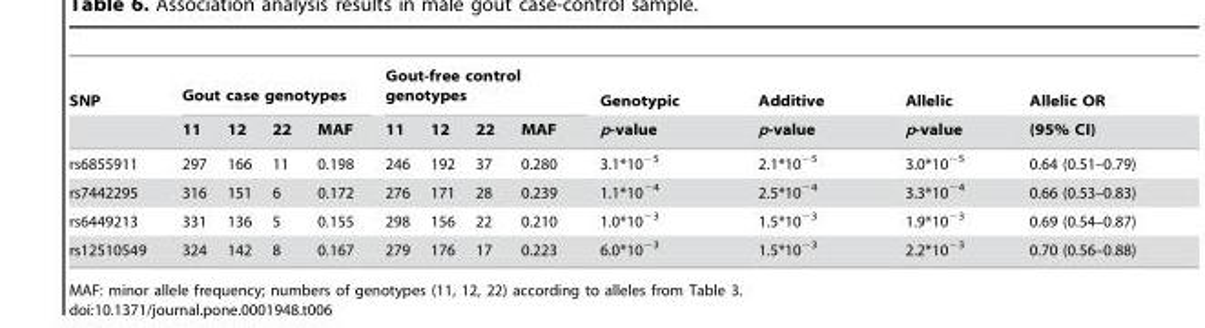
<table><thead><tr><td rowspan="2">SNP</td><td colspan="4">Gout case genotypes</td><td colspan="4">Gout-free control genotypes</td><td rowspan="2">Genotypic p-value</td><td rowspan="2">Additive p-value</td><td rowspan="2">Allelic p-value</td><td rowspan="2">Allelic OR (95% CI)</td></tr><tr><td>11</td><td>12</td><td>22</td><td>MAF</td><td>11</td><td>12</td><td>22</td><td>MAF</td></tr></thead><tbody><tr><td>rs6855911</td><td>297</td><td>166</td><td>11</td><td>0.198</td><td>246</td><td>192</td><td>37</td><td>0.280</td><td>3.1*10<sup>−5</sup></td><td>2.1*10<sup>−5</sup></td><td>3.0*10<sup>−5</sup></td><td>0.64 (0.51–0.79)</td></tr><tr><td>rs7442295</td><td>316</td><td>151</td><td>6</td><td>0.172</td><td>276</td><td>171</td><td>28</td><td>0.239</td><td>1.1*10<sup>−4</sup></td><td>2.5*10<sup>−4</sup></td><td>3.3*10<sup>−4</sup></td><td>0.66 (0.53–0.83)</td></tr><tr><td>rs6449213</td><td>331</td><td>136</td><td>5</td><td>0.155</td><td>298</td><td>156</td><td>22</td><td>0.210</td><td>1.0*10<sup>−3</sup></td><td>1.5*10<sup>−3</sup></td><td>1.9*10<sup>−3</sup></td><td>0.69 (0.54–0.87)</td></tr><tr><td>rs12510549</td><td>324</td><td>142</td><td>8</td><td>0.167</td><td>279</td><td>176</td><td>17</td><td>0.223</td><td>6.0*10<sup>−3</sup></td><td>1.5*10<sup>−3</sup></td><td>2.2*10<sup>−3</sup></td><td>0.70 (0.56–0.88)</td></tr></tbody></table>